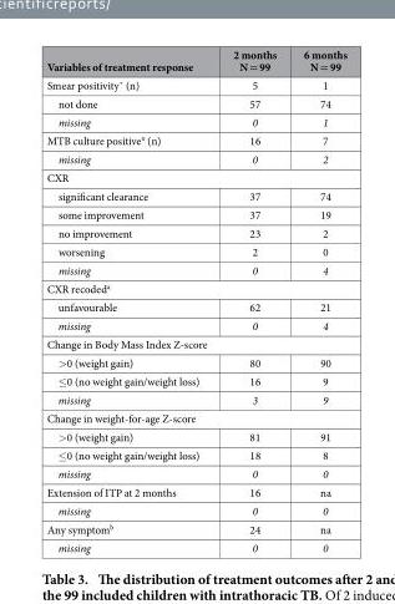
<table><thead><tr><td>Variables of treatment response</td><td>2 months N = 99</td><td>6 months N = 99</td></tr></thead><tbody><tr><td>Smear positivityˇ (n)</td><td>5</td><td>1</td></tr><tr><td>not done</td><td>57</td><td>74</td></tr><tr><td>missing</td><td>0</td><td>1</td></tr><tr><td>MTB culture positive° (n)</td><td>16</td><td>7</td></tr><tr><td>missing</td><td>0</td><td>2</td></tr><tr><td colspan="3">CXR</td></tr><tr><td>significant clearance</td><td>37</td><td>74</td></tr><tr><td>some improvement</td><td>37</td><td>19</td></tr><tr><td>no improvement</td><td>23</td><td>2</td></tr><tr><td>worsening</td><td>2</td><td>0</td></tr><tr><td>missing</td><td>0</td><td>4</td></tr><tr><td colspan="3">CXR recoded<sup>a</sup></td></tr><tr><td>unfavourable</td><td>62</td><td>21</td></tr><tr><td>missing</td><td>0</td><td>4</td></tr><tr><td colspan="3">Change in Body Mass Index Z-score</td></tr><tr><td>&gt; 0 (weight gain)</td><td>80</td><td>90</td></tr><tr><td>≤ 0 (no weight gain/weight loss)</td><td>16</td><td>9</td></tr><tr><td>missing</td><td>3</td><td>9</td></tr><tr><td colspan="3">Change in weight-for-age Z-score</td></tr><tr><td>&gt; 0 (weight gain)</td><td>81</td><td>91</td></tr><tr><td>≤ 0 (no weight gain/weight loss)</td><td>18</td><td>8</td></tr><tr><td>missing</td><td>0</td><td>0</td></tr><tr><td>Extension of ITP at 2 months</td><td>16</td><td>na</td></tr><tr><td>missing</td><td>0</td><td>0</td></tr><tr><td>Any symptom<sup>b</sup></td><td>24</td><td>na</td></tr><tr><td>missing</td><td>0</td><td>0</td></tr></tbody></table>